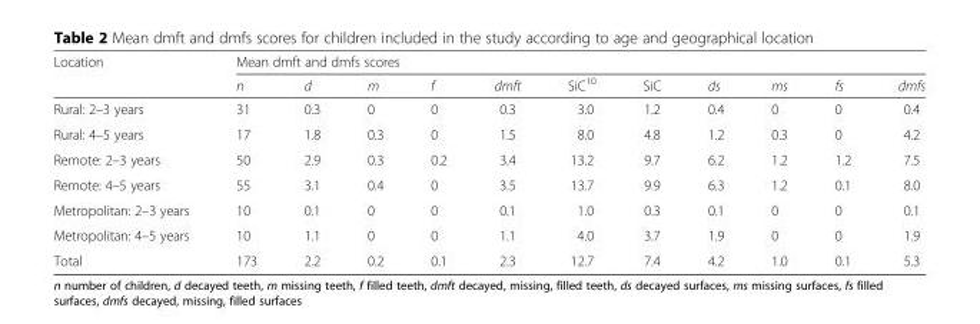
<table><thead><tr><td rowspan="2">Location</td><td colspan="11">Mean dmft and dmfs scores</td></tr><tr><td>n</td><td>d</td><td>m</td><td>f</td><td>dmft</td><td>SiC<sup>10</sup></td><td>SiC</td><td>ds</td><td>ms</td><td>fs</td><td>dmfs</td></tr></thead><tbody><tr><td>Rural: 2–3 years</td><td>31</td><td>0.3</td><td>0</td><td>0</td><td>0.3</td><td>3.0</td><td>1.2</td><td>0.4</td><td>0</td><td>0</td><td>0.4</td></tr><tr><td>Rural: 4–5 years</td><td>17</td><td>1.8</td><td>0.3</td><td>0</td><td>1.5</td><td>8.0</td><td>4.8</td><td>1.2</td><td>0.3</td><td>0</td><td>4.2</td></tr><tr><td>Remote: 2–3 years</td><td>50</td><td>2.9</td><td>0.3</td><td>0.2</td><td>3.4</td><td>13.2</td><td>9.7</td><td>6.2</td><td>1.2</td><td>1.2</td><td>7.5</td></tr><tr><td>Remote: 4–5 years</td><td>55</td><td>3.1</td><td>0.4</td><td>0</td><td>3.5</td><td>13.7</td><td>9.9</td><td>6.3</td><td>1.2</td><td>0.1</td><td>8.0</td></tr><tr><td>Metropolitan: 2–3 years</td><td>10</td><td>0.1</td><td>0</td><td>0</td><td>0.1</td><td>1.0</td><td>0.3</td><td>0.1</td><td>0</td><td>0</td><td>0.1</td></tr><tr><td>Metropolitan: 4–5 years</td><td>10</td><td>1.1</td><td>0</td><td>0</td><td>1.1</td><td>4.0</td><td>3.7</td><td>1.9</td><td>0</td><td>0</td><td>1.9</td></tr><tr><td>Total</td><td>173</td><td>2.2</td><td>0.2</td><td>0.1</td><td>2.3</td><td>12.7</td><td>7.4</td><td>4.2</td><td>1.0</td><td>0.1</td><td>5.3</td></tr></tbody></table>